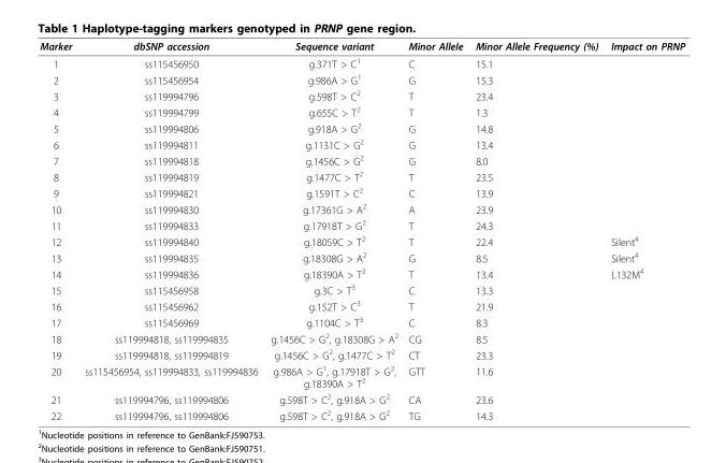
<table><thead><tr><td>Marker</td><td>dbSNP accession</td><td>Sequence variant</td><td>Minor Allele</td><td>Minor Allele Frequency (%)</td><td>Impact on PRNP</td></tr></thead><tbody><tr><td>1</td><td>ss115456950</td><td>g.371T &gt; C<sup>1</sup></td><td>C</td><td>15.1</td><td></td></tr><tr><td>2</td><td>ss115456954</td><td>g.986A &gt; G<sup>1</sup></td><td>G</td><td>15.3</td><td></td></tr><tr><td>3</td><td>ss119994796</td><td>g.598T &gt; C<sup>2</sup></td><td>T</td><td>23.4</td><td></td></tr><tr><td>4</td><td>ss119994799</td><td>g.655C &gt; T<sup>2</sup></td><td>T</td><td>1.3</td><td></td></tr><tr><td>5</td><td>ss119994806</td><td>g.918A &gt; G<sup>2</sup></td><td>G</td><td>14.8</td><td></td></tr><tr><td>6</td><td>ss119994811</td><td>g.1131C &gt; G<sup>2</sup></td><td>G</td><td>13.4</td><td></td></tr><tr><td>7</td><td>ss119994818</td><td>g.1456C &gt; G<sup>2</sup></td><td>G</td><td>8.0</td><td></td></tr><tr><td>8</td><td>ss119994819</td><td>g.1477C &gt; T<sup>2</sup></td><td>T</td><td>23.5</td><td></td></tr><tr><td>9</td><td>ss119994821</td><td>g.1591T &gt; C<sup>2</sup></td><td>C</td><td>13.9</td><td></td></tr><tr><td>10</td><td>ss119994830</td><td>g.17361G &gt; A<sup>2</sup></td><td>A</td><td>23.9</td><td></td></tr><tr><td>11</td><td>ss119994833</td><td>g.17918T &gt; G<sup>2</sup></td><td>T</td><td>24.3</td><td></td></tr><tr><td>12</td><td>ss119994840</td><td>g.18059C &gt; T<sup>2</sup></td><td>T</td><td>22.4</td><td>Silent<sup>4</sup></td></tr><tr><td>13</td><td>ss119994835</td><td>g.18308G &gt; A<sup>2</sup></td><td>G</td><td>8.5</td><td>Silent<sup>4</sup></td></tr><tr><td>14</td><td>ss119994836</td><td>g.18390A &gt; T<sup>2</sup></td><td>T</td><td>13.4</td><td>L132M<sup>4</sup></td></tr><tr><td>15</td><td>ss115456958</td><td>g.3C &gt; T<sup>3</sup></td><td>C</td><td>13.3</td><td></td></tr><tr><td>16</td><td>ss115456962</td><td>g.152T &gt; C<sup>3</sup></td><td>T</td><td>21.9</td><td></td></tr><tr><td>17</td><td>ss115456969</td><td>g.1104C &gt; T<sup>3</sup></td><td>C</td><td>8.3</td><td></td></tr><tr><td>18</td><td>ss119994818, ss119994835</td><td>g.1456C &gt; G<sup>2</sup>, g.18308G &gt; A<sup>2</sup></td><td>CG</td><td>8.5</td><td></td></tr><tr><td>19</td><td>ss119994818, ss119994819</td><td>g.1456C &gt; G<sup>2</sup>, g.1477C &gt; T<sup>2</sup></td><td>CT</td><td>23.3</td><td></td></tr><tr><td>20</td><td>ss115456954, ss119994833, ss119994836</td><td>g.986A &gt; G<sup>1</sup>, g.17918T &gt; G<sup>2</sup>, g.18390A &gt; T<sup>2</sup></td><td>GTT</td><td>11.6</td><td></td></tr><tr><td>21</td><td>ss119994796, ss119994806</td><td>g.598T &gt; C<sup>2</sup>, g.918A &gt; G<sup>2</sup></td><td>CA</td><td>23.6</td><td></td></tr><tr><td>22</td><td>ss119994796, ss119994806</td><td>g.598T &gt; C<sup>2</sup>, g.918A &gt; G<sup>2</sup></td><td>TG</td><td>14.3</td><td></td></tr></tbody></table>